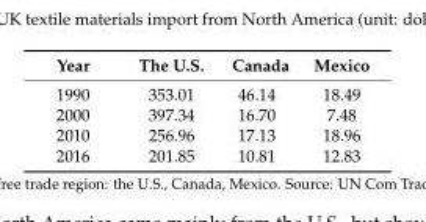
<table><thead><tr><td>Year</td><td>The U.S.</td><td>Canada</td><td>Mexico</td></tr></thead><tbody><tr><td>1990</td><td>353.01</td><td>46.14</td><td>18.49</td></tr><tr><td>2000</td><td>397.34</td><td>16.70</td><td>7.48</td></tr><tr><td>2010</td><td>256.96</td><td>17.13</td><td>18.96</td></tr><tr><td>2016</td><td>201.85</td><td>10.81</td><td>12.83</td></tr></tbody></table>